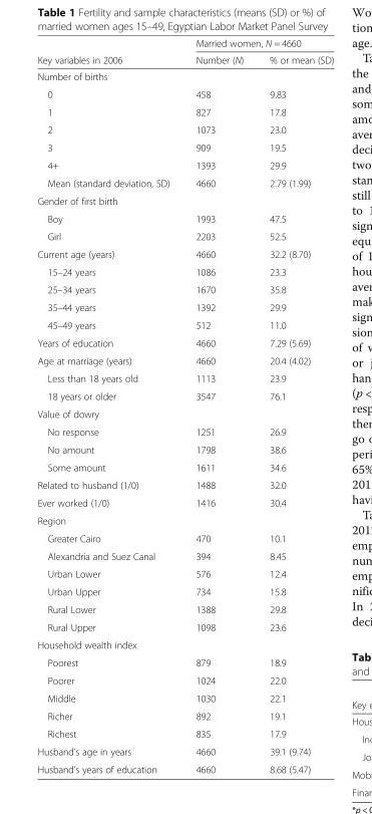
<table><thead><tr><td rowspan="2">Key variables in 2006</td><td colspan="2">Married women, N = 4660</td></tr><tr><td>Number (N)</td><td>% or mean (SD)</td></tr></thead><tbody><tr><td colspan="3">Number of births</td></tr><tr><td>0</td><td>458</td><td>9.83</td></tr><tr><td>1</td><td>827</td><td>17.8</td></tr><tr><td>2</td><td>1073</td><td>23.0</td></tr><tr><td>3</td><td>909</td><td>19.5</td></tr><tr><td>4+</td><td>1393</td><td>29.9</td></tr><tr><td>Mean (standard deviation, SD)</td><td>4660</td><td>2.79 (1.99)</td></tr><tr><td colspan="3">Gender of first birth</td></tr><tr><td>Boy</td><td>1993</td><td>47.5</td></tr><tr><td>Girl</td><td>2203</td><td>52.5</td></tr><tr><td>Current age (years)</td><td>4660</td><td>32.2 (8.70)</td></tr><tr><td>15–24 years</td><td>1086</td><td>23.3</td></tr><tr><td>25–34 years</td><td>1670</td><td>35.8</td></tr><tr><td>35–44 years</td><td>1392</td><td>29.9</td></tr><tr><td>45–49 years</td><td>512</td><td>11.0</td></tr><tr><td>Years of education</td><td>4660</td><td>7.29 (5.69)</td></tr><tr><td>Age at marriage (years)</td><td>4660</td><td>20.4 (4.02)</td></tr><tr><td>Less than 18 years old</td><td>1113</td><td>23.9</td></tr><tr><td>18 years or older</td><td>3547</td><td>76.1</td></tr><tr><td colspan="3">Value of dowry</td></tr><tr><td>No response</td><td>1251</td><td>26.9</td></tr><tr><td>No amount</td><td>1798</td><td>38.6</td></tr><tr><td>Some amount</td><td>1611</td><td>34.6</td></tr><tr><td>Related to husband (1/0)</td><td>1488</td><td>32.0</td></tr><tr><td>Ever worked (1/0)</td><td>1416</td><td>30.4</td></tr><tr><td colspan="3">Region</td></tr><tr><td>Greater Cairo</td><td>470</td><td>10.1</td></tr><tr><td>Alexandria and Suez Canal</td><td>394</td><td>8.45</td></tr><tr><td>Urban Lower</td><td>576</td><td>12.4</td></tr><tr><td>Urban Upper</td><td>734</td><td>15.8</td></tr><tr><td>Rural Lower</td><td>1388</td><td>29.8</td></tr><tr><td>Rural Upper</td><td>1098</td><td>23.6</td></tr><tr><td colspan="3">Household wealth index</td></tr><tr><td>Poorest</td><td>879</td><td>18.9</td></tr><tr><td>Poorer</td><td>1024</td><td>22.0</td></tr><tr><td>Middle</td><td>1030</td><td>22.1</td></tr><tr><td>Richer</td><td>892</td><td>19.1</td></tr><tr><td>Richest</td><td>835</td><td>17.9</td></tr><tr><td>Husband’s age in years</td><td>4660</td><td>39.1 (9.74)</td></tr><tr><td>Husband’s years of education</td><td>4660</td><td>8.68 (5.47)</td></tr></tbody></table>